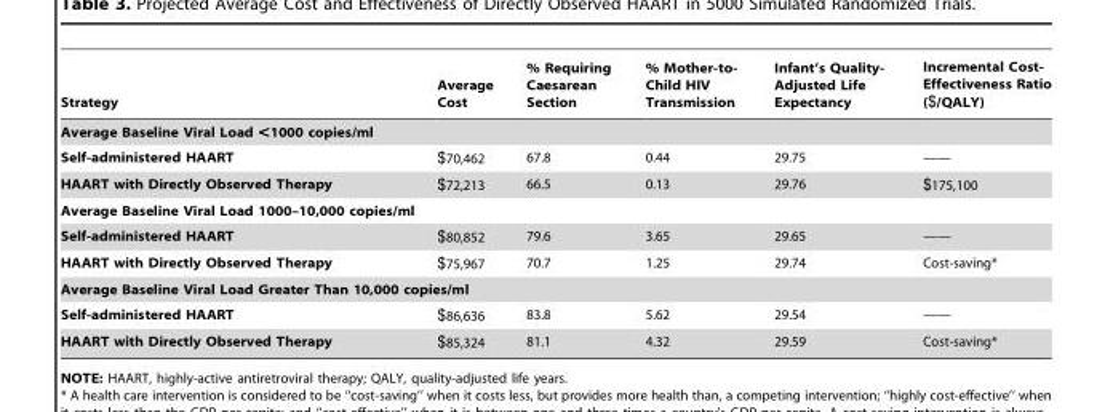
<table><thead><tr><td>Strategy</td><td>Average Cost</td><td>% Requiring Caesarean Section</td><td>% Mother-to- Child HIV Transmission</td><td>Infant’s Quality- Adjusted Life Expectancy</td><td>Incremental Cost- Effectiveness Ratio ($/QALY)</td></tr></thead><tbody><tr><td colspan="6">Average Baseline Viral Load &lt;1000 copies/ml</td></tr><tr><td>Self-administered HAART</td><td>$70,462</td><td>67.8</td><td>0.44</td><td>29.75</td><td>——</td></tr><tr><td>HAART with Directly Observed Therapy</td><td>$72,213</td><td>66.5</td><td>0.13</td><td>29.76</td><td>$175,100</td></tr><tr><td colspan="6">Average Baseline Viral Load 1000–10,000 copies/ml</td></tr><tr><td>Self-administered HAART</td><td>$80,852</td><td>79.6</td><td>3.65</td><td>29.65</td><td>——</td></tr><tr><td>HAART with Directly Observed Therapy</td><td>$75,967</td><td>70.7</td><td>1.25</td><td>29.74</td><td>Cost-saving*</td></tr><tr><td colspan="6">Average Baseline Viral Load Greater Than 10,000 copies/ml</td></tr><tr><td>Self-administered HAART</td><td>$86,636</td><td>83.8</td><td>5.62</td><td>29.54</td><td>——</td></tr><tr><td>HAART with Directly Observed Therapy</td><td>$85,324</td><td>81.1</td><td>4.32</td><td>29.59</td><td>Cost-saving*</td></tr></tbody></table>